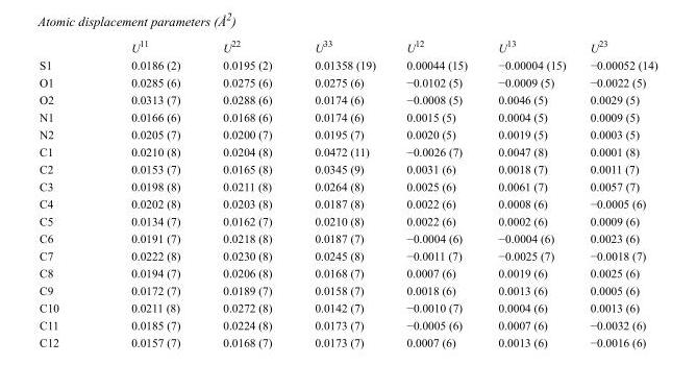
<table><thead><tr><td></td><td>U<sup>11</sup></td><td>U<sup>22</sup></td><td>U<sup>33</sup></td><td>U<sup>12</sup></td><td>U<sup>13</sup></td><td>U<sup>23</sup></td></tr></thead><tbody><tr><td>S1</td><td>0.0186 (2)</td><td>0.0195 (2)</td><td>0.01358 (19)</td><td>0.00044 (15)</td><td>−0.00004 (15)</td><td>−0.00052 (14)</td></tr><tr><td>O1</td><td>0.0285 (6)</td><td>0.0275 (6)</td><td>0.0275 (6)</td><td>−0.0102 (5)</td><td>−0.0009 (5)</td><td>−0.0022 (5)</td></tr><tr><td>O2</td><td>0.0313 (7)</td><td>0.0288 (6)</td><td>0.0174 (6)</td><td>−0.0008 (5)</td><td>0.0046 (5)</td><td>0.0029 (5)</td></tr><tr><td>N1</td><td>0.0166 (6)</td><td>0.0168 (6)</td><td>0.0174 (6)</td><td>0.0015 (5)</td><td>0.0004 (5)</td><td>0.0009 (5)</td></tr><tr><td>N2</td><td>0.0205 (7)</td><td>0.0200 (7)</td><td>0.0195 (7)</td><td>0.0020 (5)</td><td>0.0019 (5)</td><td>0.0003 (5)</td></tr><tr><td>C1</td><td>0.0210 (8)</td><td>0.0204 (8)</td><td>0.0472 (11)</td><td>−0.0026 (7)</td><td>0.0047 (8)</td><td>0.0001 (8)</td></tr><tr><td>C2</td><td>0.0153 (7)</td><td>0.0165 (8)</td><td>0.0345 (9)</td><td>0.0031 (6)</td><td>0.0018 (7)</td><td>0.0011 (7)</td></tr><tr><td>C3</td><td>0.0198 (8)</td><td>0.0211 (8)</td><td>0.0264 (8)</td><td>0.0025 (6)</td><td>0.0061 (7)</td><td>0.0057 (7)</td></tr><tr><td>C4</td><td>0.0202 (8)</td><td>0.0203 (8)</td><td>0.0187 (8)</td><td>0.0022 (6)</td><td>0.0008 (6)</td><td>−0.0005 (6)</td></tr><tr><td>C5</td><td>0.0134 (7)</td><td>0.0162 (7)</td><td>0.0210 (8)</td><td>0.0022 (6)</td><td>0.0002 (6)</td><td>0.0009 (6)</td></tr><tr><td>C6</td><td>0.0191 (7)</td><td>0.0218 (8)</td><td>0.0187 (7)</td><td>−0.0004 (6)</td><td>−0.0004 (6)</td><td>0.0023 (6)</td></tr><tr><td>C7</td><td>0.0222 (8)</td><td>0.0230 (8)</td><td>0.0245 (8)</td><td>−0.0011 (7)</td><td>−0.0025 (7)</td><td>−0.0018 (7)</td></tr><tr><td>C8</td><td>0.0194 (7)</td><td>0.0206 (8)</td><td>0.0168 (7)</td><td>0.0007 (6)</td><td>0.0019 (6)</td><td>0.0025 (6)</td></tr><tr><td>C9</td><td>0.0172 (7)</td><td>0.0189 (7)</td><td>0.0158 (7)</td><td>0.0018 (6)</td><td>0.0013 (6)</td><td>0.0005 (6)</td></tr><tr><td>C10</td><td>0.0211 (8)</td><td>0.0272 (8)</td><td>0.0142 (7)</td><td>−0.0010 (7)</td><td>0.0004 (6)</td><td>0.0013 (6)</td></tr><tr><td>C11</td><td>0.0185 (7)</td><td>0.0224 (8)</td><td>0.0173 (7)</td><td>−0.0005 (6)</td><td>0.0007 (6)</td><td>−0.0032 (6)</td></tr><tr><td>C12</td><td>0.0157 (7)</td><td>0.0168 (7)</td><td>0.0173 (7)</td><td>0.0007 (6)</td><td>0.0013 (6)</td><td>−0.0016 (6)</td></tr></tbody></table>